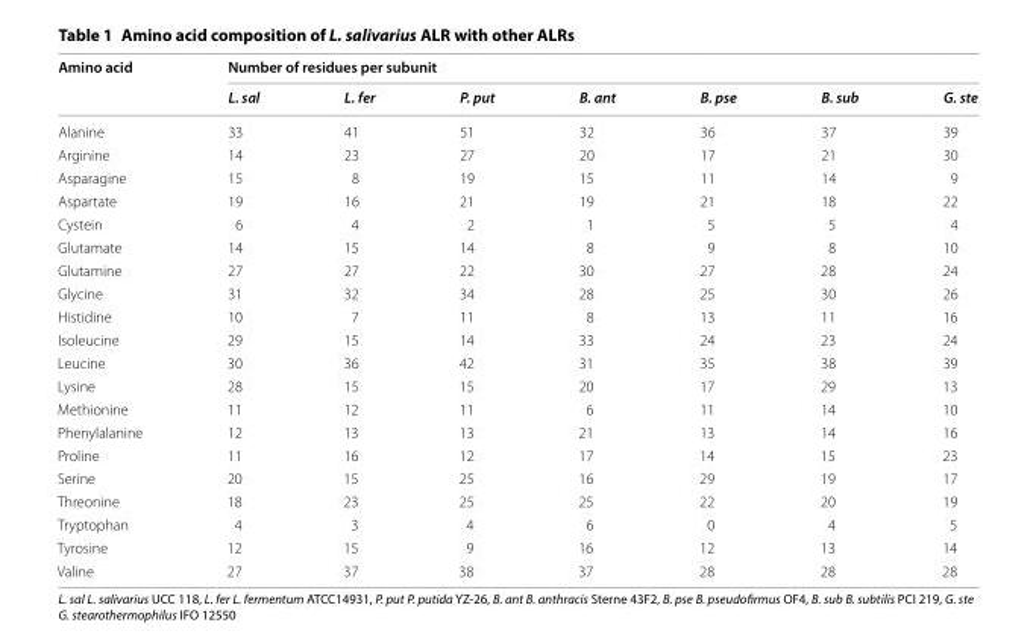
<table><thead><tr><td rowspan="2">Amino acid</td><td colspan="7">Number of residues per subunit</td></tr><tr><td>L. sal</td><td>L. fer</td><td>P. put</td><td>B. ant</td><td>B. pse</td><td>B. sub</td><td>G. ste</td></tr></thead><tbody><tr><td>Alanine</td><td>33</td><td>41</td><td>51</td><td>32</td><td>36</td><td>37</td><td>39</td></tr><tr><td>Arginine</td><td>14</td><td>23</td><td>27</td><td>20</td><td>17</td><td>21</td><td>30</td></tr><tr><td>Asparagine</td><td>15</td><td>8</td><td>19</td><td>15</td><td>11</td><td>14</td><td>9</td></tr><tr><td>Aspartate</td><td>19</td><td>16</td><td>21</td><td>19</td><td>21</td><td>18</td><td>22</td></tr><tr><td>Cystein</td><td>6</td><td>4</td><td>2</td><td>1</td><td>5</td><td>5</td><td>4</td></tr><tr><td>Glutamate</td><td>14</td><td>15</td><td>14</td><td>8</td><td>9</td><td>8</td><td>10</td></tr><tr><td>Glutamine</td><td>27</td><td>27</td><td>22</td><td>30</td><td>27</td><td>28</td><td>24</td></tr><tr><td>Glycine</td><td>31</td><td>32</td><td>34</td><td>28</td><td>25</td><td>30</td><td>26</td></tr><tr><td>Histidine</td><td>10</td><td>7</td><td>11</td><td>8</td><td>13</td><td>11</td><td>16</td></tr><tr><td>Isoleucine</td><td>29</td><td>15</td><td>14</td><td>33</td><td>24</td><td>23</td><td>24</td></tr><tr><td>Leucine</td><td>30</td><td>36</td><td>42</td><td>31</td><td>35</td><td>38</td><td>39</td></tr><tr><td>Lysine</td><td>28</td><td>15</td><td>15</td><td>20</td><td>17</td><td>29</td><td>13</td></tr><tr><td>Methionine</td><td>11</td><td>12</td><td>11</td><td>6</td><td>11</td><td>14</td><td>10</td></tr><tr><td>Phenylalanine</td><td>12</td><td>13</td><td>13</td><td>21</td><td>13</td><td>14</td><td>16</td></tr><tr><td>Proline</td><td>11</td><td>16</td><td>12</td><td>17</td><td>14</td><td>15</td><td>23</td></tr><tr><td>Serine</td><td>20</td><td>15</td><td>25</td><td>16</td><td>29</td><td>19</td><td>17</td></tr><tr><td>Threonine</td><td>18</td><td>23</td><td>25</td><td>25</td><td>22</td><td>20</td><td>19</td></tr><tr><td>Tryptophan</td><td>4</td><td>3</td><td>4</td><td>6</td><td>0</td><td>4</td><td>5</td></tr><tr><td>Tyrosine</td><td>12</td><td>15</td><td>9</td><td>16</td><td>12</td><td>13</td><td>14</td></tr><tr><td>Valine</td><td>27</td><td>37</td><td>38</td><td>37</td><td>28</td><td>28</td><td>28</td></tr></tbody></table>